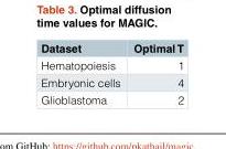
<table><thead><tr><td>Dataset</td><td>Optimal T</td></tr></thead><tbody><tr><td>Hematopoiesis</td><td>1</td></tr><tr><td>Embryonic cells</td><td>4</td></tr><tr><td>Glioblastoma</td><td>2</td></tr></tbody></table>